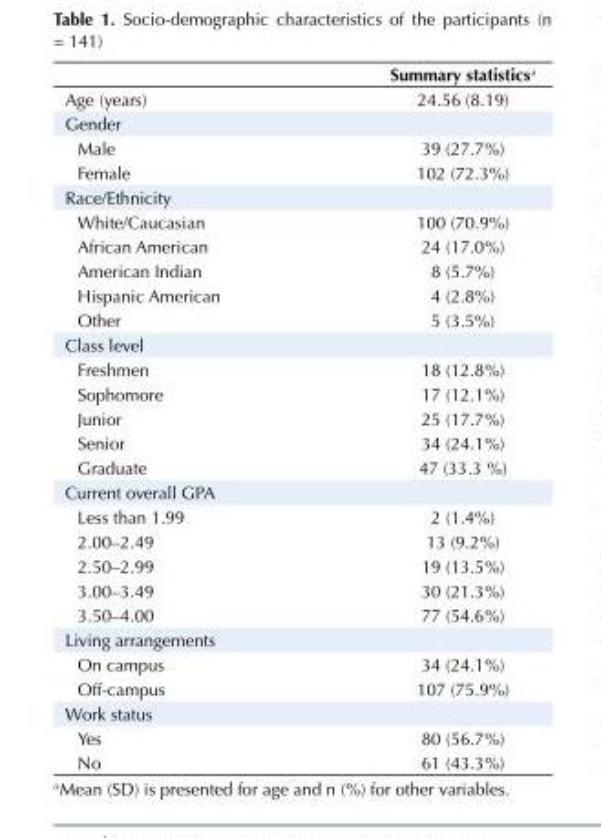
<table><thead><tr><td></td><td>Summary statistics<sup>a</sup></td></tr></thead><tbody><tr><td>Age (years)</td><td>24.56 (8.19)</td></tr><tr><td colspan="2">Gender</td></tr><tr><td>Male</td><td>39 (27.7%)</td></tr><tr><td>Female</td><td>102 (72.3%)</td></tr><tr><td colspan="2">Race/Ethnicity</td></tr><tr><td>White/Caucasian</td><td>100 (70.9%)</td></tr><tr><td>African American</td><td>24 (17.0%)</td></tr><tr><td>American Indian</td><td>8 (5.7%)</td></tr><tr><td>Hispanic American</td><td>4 (2.8%)</td></tr><tr><td>Other</td><td>5 (3.5%)</td></tr><tr><td colspan="2">Class level</td></tr><tr><td>Freshmen</td><td>18 (12.8%)</td></tr><tr><td>Sophomore</td><td>17 (12.1%)</td></tr><tr><td>Junior</td><td>25 (17.7%)</td></tr><tr><td>Senior</td><td>34 (24.1%)</td></tr><tr><td>Graduate</td><td>47 (33.3 %)</td></tr><tr><td colspan="2">Current overall GPA</td></tr><tr><td>Less than 1.99</td><td>2 (1.4%)</td></tr><tr><td>2.00–2.49</td><td>13 (9.2%)</td></tr><tr><td>2.50–2.99</td><td>19 (13.5%)</td></tr><tr><td>3.00–3.49</td><td>30 (21.3%)</td></tr><tr><td>3.50–4.00</td><td>77 (54.6%)</td></tr><tr><td colspan="2">Living arrangements</td></tr><tr><td>On campus</td><td>34 (24.1%)</td></tr><tr><td>Off-campus</td><td>107 (75.9%)</td></tr><tr><td colspan="2">Work status</td></tr><tr><td>Yes</td><td>80 (56.7%)</td></tr><tr><td>No</td><td>61 (43.3%)</td></tr></tbody></table>